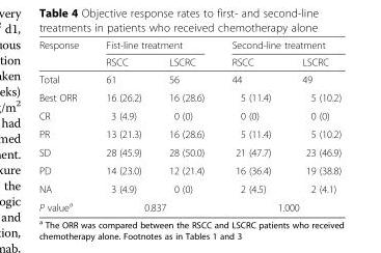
<table><thead><tr><td rowspan="2">Response</td><td colspan="2">Fist-line treatment</td><td colspan="2">Second-line treatment</td></tr><tr><td>RSCC</td><td>LSCRC</td><td>RSCC</td><td>LSCRC</td></tr></thead><tbody><tr><td>Total</td><td>61</td><td>56</td><td>44</td><td>49</td></tr><tr><td>Best ORR</td><td>16 (26.2)</td><td>16 (28.6)</td><td>5 (11.4)</td><td>5 (10.2)</td></tr><tr><td>CR</td><td>3 (4.9)</td><td>0 (0)</td><td>0 (0)</td><td>0 (0)</td></tr><tr><td>PR</td><td>13 (21.3)</td><td>16 (28.6)</td><td>5 (11.4)</td><td>5 (10.2)</td></tr><tr><td>SD</td><td>28 (45.9)</td><td>28 (50.0)</td><td>21 (47.7)</td><td>23 (46.9)</td></tr><tr><td>PD</td><td>14 (23.0)</td><td>12 (21.4)</td><td>16 (36.4)</td><td>19 (38.8)</td></tr><tr><td>NA</td><td>3 (4.9)</td><td>0 (0)</td><td>2 (4.5)</td><td>2 (4.1)</td></tr><tr><td>P value<sup>a</sup></td><td colspan="2">0.837</td><td colspan="2">1.000</td></tr></tbody></table>